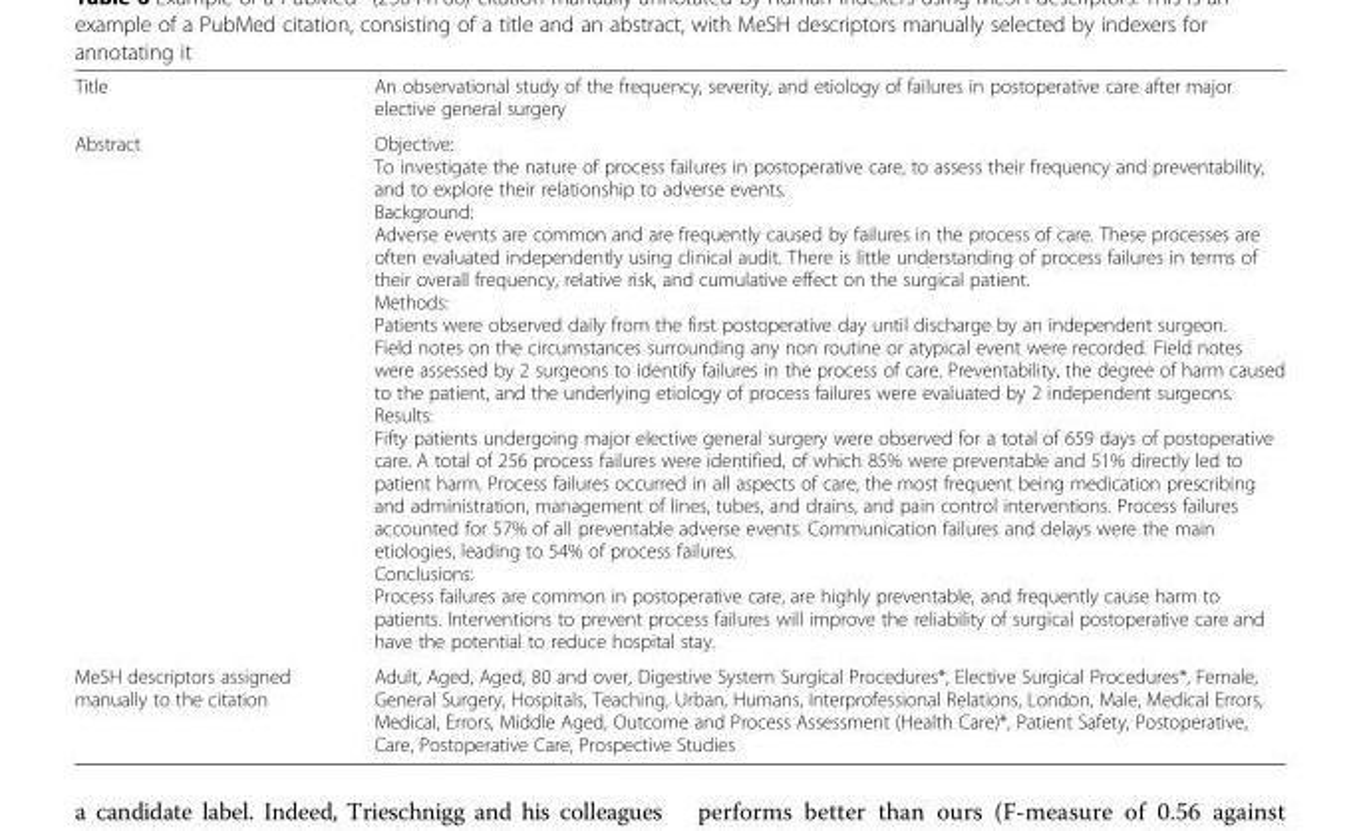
<table><tbody><tr><td>Title</td><td>An observational study of the frequency, severity, and etiology of failures in postoperative care after major elective general surgery</td></tr><tr><td>Abstract</td><td>Objective: To investigate the nature of process failures in postoperative care, to assess their frequency and preventability, and to explore their relationship to adverse events. Background: Adverse events are common and are frequently caused by failures in the process of care. These processes are often evaluated independently using clinical audit. There is little understanding of process failures in terms of their overall frequency, relative risk, and cumulative effect on the surgical patient. Methods: Patients were observed daily from the first postoperative day until discharge by an independent surgeon. Field notes on the circumstances surrounding any non routine or atypical event were recorded. Field notes were assessed by 2 surgeons to identify failures in the process of care. Preventability, the degree of harm caused to the patient, and the underlying etiology of process failures were evaluated by 2 independent surgeons. Results: Fifty patients undergoing major elective general surgery were observed for a total of 659 days of postoperative care. A total of 256 process failures were identified, of which 85% were preventable and 51% directly led to patient harm. Process failures occurred in all aspects of care, the most frequent being medication prescribing and administration, management of lines, tubes, and drains, and pain control interventions. Process failures accounted for 57% of all preventable adverse events. Communication failures and delays were the main etiologies, leading to 54% of process failures. Conclusions: Process failures are common in postoperative care, are highly preventable, and frequently cause harm to patients. Interventions to prevent process failures will improve the reliability of surgical postoperative care and have the potential to reduce hospital stay.</td></tr><tr><td>MeSH descriptors assigned manually to the citation</td><td>Adult, Aged, Aged, 80 and over, Digestive System Surgical Procedures*, Elective Surgical Procedures*, Female, General Surgery, Hospitals, Teaching, Urban, Humans, Interprofessional Relations, London, Male, Medical Errors, Medical, Errors, Middle Aged, Outcome and Process Assessment (Health Care)*, Patient Safety, Postoperative, Care, Postoperative Care, Prospective Studies</td></tr></tbody></table>